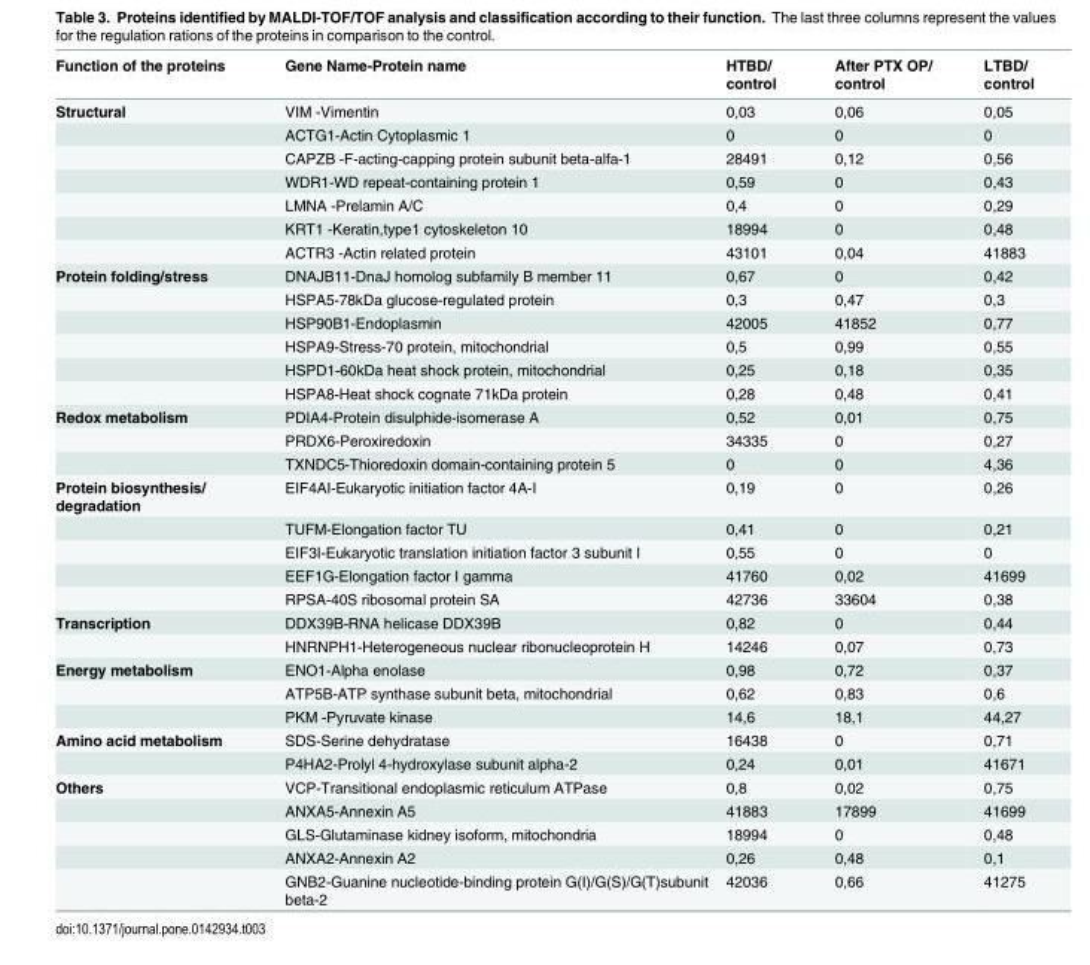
<table><thead><tr><td>Function of the proteins</td><td>Gene Name-Protein name</td><td>HTBD/ control</td><td>After PTX OP/ control</td><td>LTBD/ control</td></tr></thead><tbody><tr><td rowspan="7">Structural</td><td>VIM -Vimentin</td><td>0,03</td><td>0,06</td><td>0,05</td></tr><tr><td>ACTG1-Actin Cytoplasmic 1</td><td>0</td><td>0</td><td>0</td></tr><tr><td>CAPZB -F-acting-capping protein subunit beta-alfa-1</td><td>28491</td><td>0,12</td><td>0,56</td></tr><tr><td>WDR1-WD repeat-containing protein 1</td><td>0,59</td><td>0</td><td>0,43</td></tr><tr><td>LMNA -Prelamin A/C</td><td>0,4</td><td>0</td><td>0,29</td></tr><tr><td>KRT1 -Keratin,type1 cytoskeleton 10</td><td>18994</td><td>0</td><td>0,48</td></tr><tr><td>ACTR3 -Actin related protein</td><td>43101</td><td>0,04</td><td>41883</td></tr><tr><td rowspan="6">Protein folding/stress</td><td>DNAJB11-DnaJ homolog subfamily B member 11</td><td>0,67</td><td>0</td><td>0,42</td></tr><tr><td>HSPA5-78kDa glucose-regulated protein</td><td>0,3</td><td>0,47</td><td>0,3</td></tr><tr><td>HSP90B1-Endoplasmin</td><td>42005</td><td>41852</td><td>0,77</td></tr><tr><td>HSPA9-Stress-70 protein, mitochondrial</td><td>0,5</td><td>0,99</td><td>0,55</td></tr><tr><td>HSPD1-60kDa heat shock protein, mitochondrial</td><td>0,25</td><td>0,18</td><td>0,35</td></tr><tr><td>HSPA8-Heat shock cognate 71kDa protein</td><td>0,28</td><td>0,48</td><td>0,41</td></tr><tr><td rowspan="3">Redox metabolism</td><td>PDIA4-Protein disulphide-isomerase A</td><td>0,52</td><td>0,01</td><td>0,75</td></tr><tr><td>PRDX6-Peroxiredoxin</td><td>34335</td><td>0</td><td>0,27</td></tr><tr><td>TXNDC5-Thioredoxin domain-containing protein 5</td><td>0</td><td>0</td><td>4,36</td></tr><tr><td rowspan="5">Protein biosynthesis/ degradation</td><td>EIF4AI-Eukaryotic initiation factor 4A-I</td><td>0,19</td><td>0</td><td>0,26</td></tr><tr><td>TUFM-Elongation factor TU</td><td>0,41</td><td>0</td><td>0,21</td></tr><tr><td>EIF3I-Eukaryotic translation initiation factor 3 subunit I</td><td>0,55</td><td>0</td><td>0</td></tr><tr><td>EEF1G-Elongation factor I gamma</td><td>41760</td><td>0,02</td><td>41699</td></tr><tr><td>RPSA-40S ribosomal protein SA</td><td>42736</td><td>33604</td><td>0,38</td></tr><tr><td rowspan="2">Transcription</td><td>DDX39B-RNA helicase DDX39B</td><td>0,82</td><td>0</td><td>0,44</td></tr><tr><td>HNRNPH1-Heterogeneous nuclear ribonucleoprotein H</td><td>14246</td><td>0,07</td><td>0,73</td></tr><tr><td rowspan="3">Energy metabolism</td><td>ENO1-Alpha enolase</td><td>0,98</td><td>0,72</td><td>0,37</td></tr><tr><td>ATP5B-ATP synthase subunit beta, mitochondrial</td><td>0,62</td><td>0,83</td><td>0,6</td></tr><tr><td>PKM -Pyruvate kinase</td><td>14,6</td><td>18,1</td><td>44,27</td></tr><tr><td rowspan="2">Amino acid metabolism</td><td>SDS-Serine dehydratase</td><td>16438</td><td>0</td><td>0,71</td></tr><tr><td>P4HA2-Prolyl 4-hydroxylase subunit alpha-2</td><td>0,24</td><td>0,01</td><td>41671</td></tr><tr><td rowspan="5">Others</td><td>VCP-Transitional endoplasmic reticulum ATPase</td><td>0,8</td><td>0,02</td><td>0,75</td></tr><tr><td>ANXA5-Annexin A5</td><td>41883</td><td>17899</td><td>41699</td></tr><tr><td>GLS-Glutaminase kidney isoform, mitochondria</td><td>18994</td><td>0</td><td>0,48</td></tr><tr><td>ANXA2-Annexin A2</td><td>0,26</td><td>0,48</td><td>0,1</td></tr><tr><td>GNB2-Guanine nucleotide-binding protein G(I)/G(S)/G(T)subunit beta-2</td><td>42036</td><td>0,66</td><td>41275</td></tr></tbody></table>